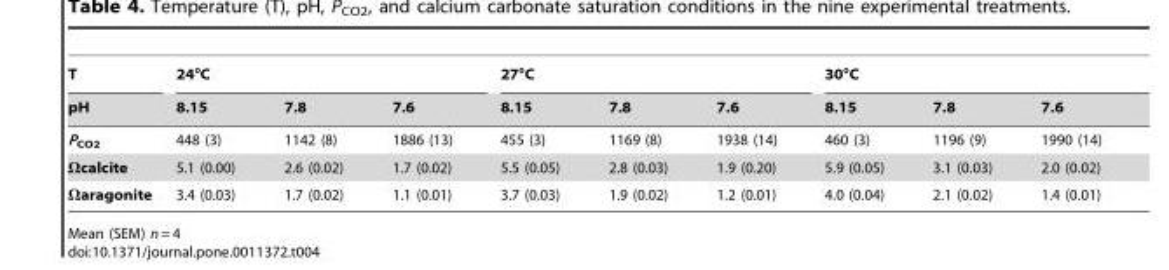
<table><thead><tr><td rowspan="2">T pH</td><td colspan="3">24°C</td><td colspan="3">27°C</td><td colspan="3">30°C</td></tr><tr><td>8.15</td><td>7.8</td><td>7.6</td><td>8.15</td><td>7.8</td><td>7.6</td><td>8.15</td><td>7.8</td><td>7.6</td></tr></thead><tbody><tr><td>P<sub>CO2</sub></td><td>448 (3)</td><td>1142 (8)</td><td>1886 (13)</td><td>455 (3)</td><td>1169 (8)</td><td>1938 (14)</td><td>460 (3)</td><td>1196 (9)</td><td>1990 (14)</td></tr><tr><td>Ωcalcite</td><td>5.1 (0.00)</td><td>2.6 (0.02)</td><td>1.7 (0.02)</td><td>5.5 (0.05)</td><td>2.8 (0.03)</td><td>1.9 (0.20)</td><td>5.9 (0.05)</td><td>3.1 (0.03)</td><td>2.0 (0.02)</td></tr><tr><td>Ωaragonite</td><td>3.4 (0.03)</td><td>1.7 (0.02)</td><td>1.1 (0.01)</td><td>3.7 (0.03)</td><td>1.9 (0.02)</td><td>1.2 (0.01)</td><td>4.0 (0.04)</td><td>2.1 (0.02)</td><td>1.4 (0.01)</td></tr></tbody></table>